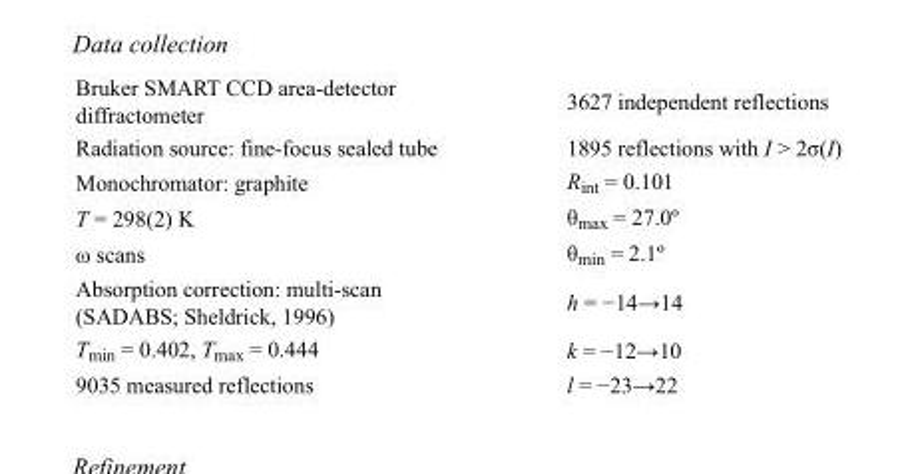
<table><tbody><tr><td>Bruker SMART CCD area-detector diffractometer</td><td>3627 independent reflections</td></tr><tr><td>Radiation source: fine-focus sealed tube</td><td>1895 reflections with I &gt; 2σ(I)</td></tr><tr><td>Monochromator: graphite</td><td>R<sub>int</sub> = 0.101</td></tr><tr><td>T = 298(2) K</td><td>θ<sub>max</sub> = 27.0º</td></tr><tr><td>ω scans</td><td>θ<sub>min</sub> = 2.1º</td></tr><tr><td>Absorption correction: multi-scan (SADABS; Sheldrick, 1996)</td><td>h = −14→14</td></tr><tr><td>T<sub>min</sub> = 0.402, T<sub>max</sub> = 0.444</td><td>k = −12→10</td></tr><tr><td>9035 measured reflections</td><td>l = −23→22</td></tr></tbody></table>